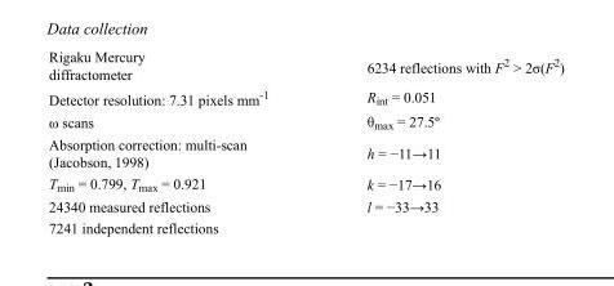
<table><tbody><tr><td>Rigaku Mercury diffractometer</td><td>6234 reflections with F<sup>2</sup> &gt; 2σ(F<sup>2</sup>)</td></tr><tr><td>Detector resolution: 7.31 pixels mm<sup>-1</sup></td><td>R<sub>int</sub> = 0.051</td></tr><tr><td>ω scans</td><td>θmax = 27.5º</td></tr><tr><td>Absorption correction: multi-scan (Jacobson, 1998)</td><td>h = −11→11</td></tr><tr><td>T<sub>min</sub> = 0.799, T<sub>max</sub> = 0.921</td><td>k = −17→16</td></tr><tr><td>24340 measured reflections</td><td>l = −33→33</td></tr><tr><td>7241 independent reflections</td><td></td></tr></tbody></table>